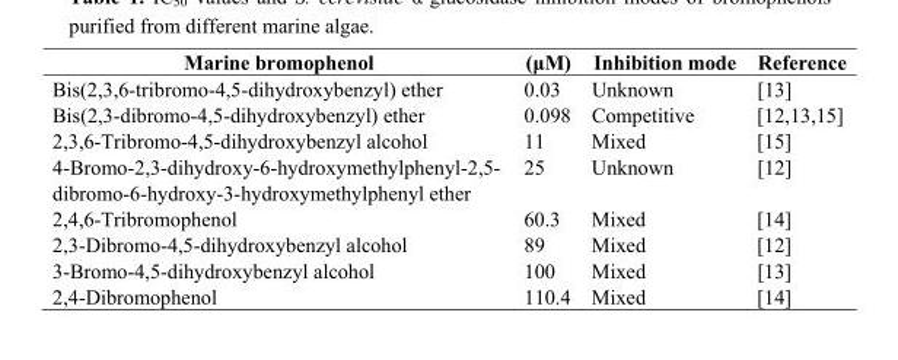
<table><thead><tr><td>Marine bromophenol</td><td>(μM)</td><td>Inhibition mode</td><td>Reference</td></tr></thead><tbody><tr><td>Bis(2,3,6-tribromo-4,5-dihydroxybenzyl) ether</td><td>0.03</td><td>Unknown</td><td>[13]</td></tr><tr><td>Bis(2,3-dibromo-4,5-dihydroxybenzyl) ether</td><td>0.098</td><td>Competitive</td><td>[12,13,15]</td></tr><tr><td>2,3,6-Tribromo-4,5-dihydroxybenzyl alcohol</td><td>11</td><td>Mixed</td><td>[15]</td></tr><tr><td>4-Bromo-2,3-dihydroxy-6-hydroxymethylphenyl-2,5- dibromo-6-hydroxy-3-hydroxymethylphenyl ether</td><td>25</td><td>Unknown</td><td>[12]</td></tr><tr><td>2,4,6-Tribromophenol</td><td>60.3</td><td>Mixed</td><td>[14]</td></tr><tr><td>2,3-Dibromo-4,5-dihydroxybenzyl alcohol</td><td>89</td><td>Mixed</td><td>[12]</td></tr><tr><td>3-Bromo-4,5-dihydroxybenzyl alcohol</td><td>100</td><td>Mixed</td><td>[13]</td></tr><tr><td>2,4-Dibromophenol</td><td>110.4</td><td>Mixed</td><td>[14]</td></tr></tbody></table>